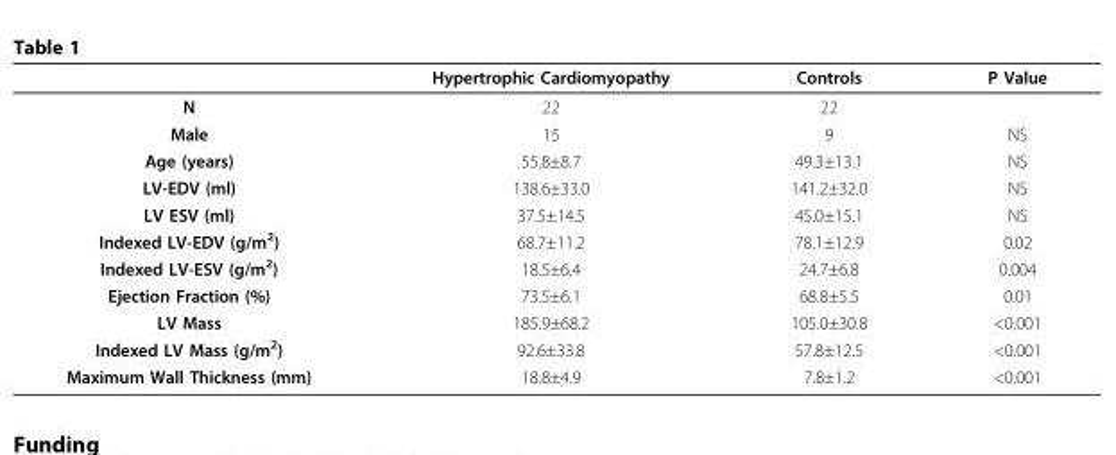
<table><thead><tr><td></td><td>Hypertrophic Cardiomyopathy</td><td>Controls</td><td>P Value</td></tr></thead><tbody><tr><td>N</td><td>22</td><td>22</td><td></td></tr><tr><td>Male</td><td>15</td><td>9</td><td>NS</td></tr><tr><td>Age (years)</td><td>55.8±8.7</td><td>49.3±13.1</td><td>NS</td></tr><tr><td>LV-EDV (ml)</td><td>138.6±33.0</td><td>141.2±32.0</td><td>NS</td></tr><tr><td>LV ESV (ml)</td><td>37.5±14.5</td><td>45.0±15.1</td><td>NS</td></tr><tr><td>Indexed LV-EDV (g/m<sup>2</sup>)</td><td>68.7±11.2</td><td>78.1±12.9</td><td>0.02</td></tr><tr><td>Indexed LV-ESV (g/m<sup>2</sup>)</td><td>18.5±6.4</td><td>24.7±6.8</td><td>0.004</td></tr><tr><td>Ejection Fraction (%)</td><td>73.5±6.1</td><td>68.8±5.5</td><td>0.01</td></tr><tr><td>LV Mass</td><td>185.9±68.2</td><td>105.0±30.8</td><td>&lt;0.001</td></tr><tr><td>Indexed LV Mass (g/m<sup>2</sup>)</td><td>92.6±33.8</td><td>57.8±12.5</td><td>&lt;0.001</td></tr><tr><td>Maximum Wall Thickness (mm)</td><td>18.8±4.9</td><td>7.8±1.2</td><td>&lt;0.001</td></tr></tbody></table>